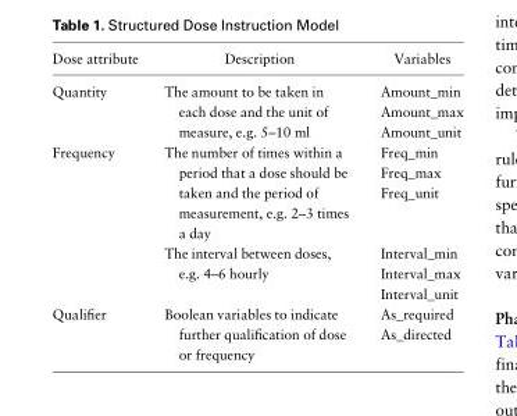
<table><thead><tr><td>Dose attribute</td><td>Description</td><td>Variables</td></tr></thead><tbody><tr><td rowspan="3">Quantity</td><td rowspan="3">The amount to be taken in each dose and the unit of measure, e.g. 5–10 ml</td><td>Amount_min</td></tr><tr><td>Amount_max</td></tr><tr><td>Amount_unit</td></tr><tr><td rowspan="6">Frequency</td><td rowspan="3">The number of times within a period that a dose should be taken and the period of measurement, e.g. 2–3 times a day</td><td>Freq_min</td></tr><tr><td>Freq_max</td></tr><tr><td>Freq_unit</td></tr><tr><td rowspan="3">The interval between doses, e.g. 4–6 hourly</td><td>Interval_min</td></tr><tr><td>Interval_max</td></tr><tr><td>Interval_unit</td></tr><tr><td rowspan="2">Qualifier</td><td rowspan="2">Boolean variables to indicate further qualification of dose or frequency</td><td>As_required</td></tr><tr><td>As_directed</td></tr></tbody></table>